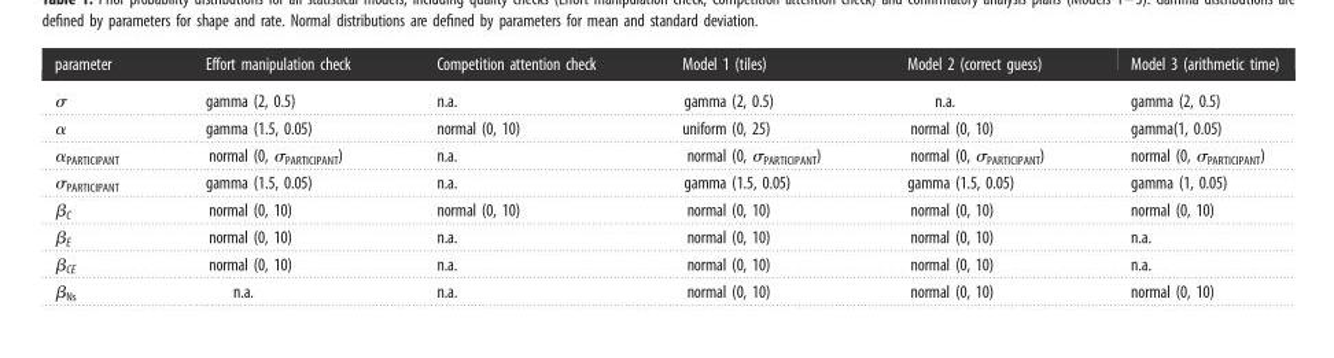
<table><thead><tr><td>parameter</td><td>Effort manipulation check</td><td>Competition attention check</td><td>Model 1 (tiles)</td><td>Model 2 (correct guess)</td><td>Model 3 (arithmetic time)</td></tr></thead><tbody><tr><td>σ</td><td>gamma (2, 0.5)</td><td>n.a.</td><td>gamma (2, 0.5)</td><td>n.a.</td><td>gamma (2, 0.5)</td></tr><tr><td>α</td><td>gamma (1.5, 0.05)</td><td>normal (0, 10)</td><td>uniform (0, 25)</td><td>normal (0, 10)</td><td>gamma(1, 0.05)</td></tr><tr><td>α<sub>PARTICIPANT</sub></td><td>normal (0, σ<sub>PARTICIPANT</sub>)</td><td>n.a.</td><td>normal (0, σ<sub>PARTICIPANT</sub>)</td><td>normal (0, σ<sub>PARTICIPANT</sub>)</td><td>normal (0, σ<sub>PARTICIPANT</sub>)</td></tr><tr><td>σ<sub>PARTICIPANT</sub></td><td>gamma (1.5, 0.05)</td><td>n.a.</td><td>gamma (1.5, 0.05)</td><td>gamma (1.5, 0.05)</td><td>gamma (1, 0.05)</td></tr><tr><td>β<sub>C</sub></td><td>normal (0, 10)</td><td>normal (0, 10)</td><td>normal (0, 10)</td><td>normal (0, 10)</td><td>normal (0, 10)</td></tr><tr><td>β<sub>E</sub></td><td>normal (0, 10)</td><td>n.a.</td><td>normal (0, 10)</td><td>normal (0, 10)</td><td>n.a.</td></tr><tr><td>β<sub>CE</sub></td><td>normal (0, 10)</td><td>n.a.</td><td>normal (0, 10)</td><td>normal (0, 10)</td><td>n.a.</td></tr><tr><td>β<sub>Ns</sub></td><td>n.a.</td><td>n.a.</td><td>normal (0, 10)</td><td>normal (0, 10)</td><td>normal (0, 10)</td></tr></tbody></table>